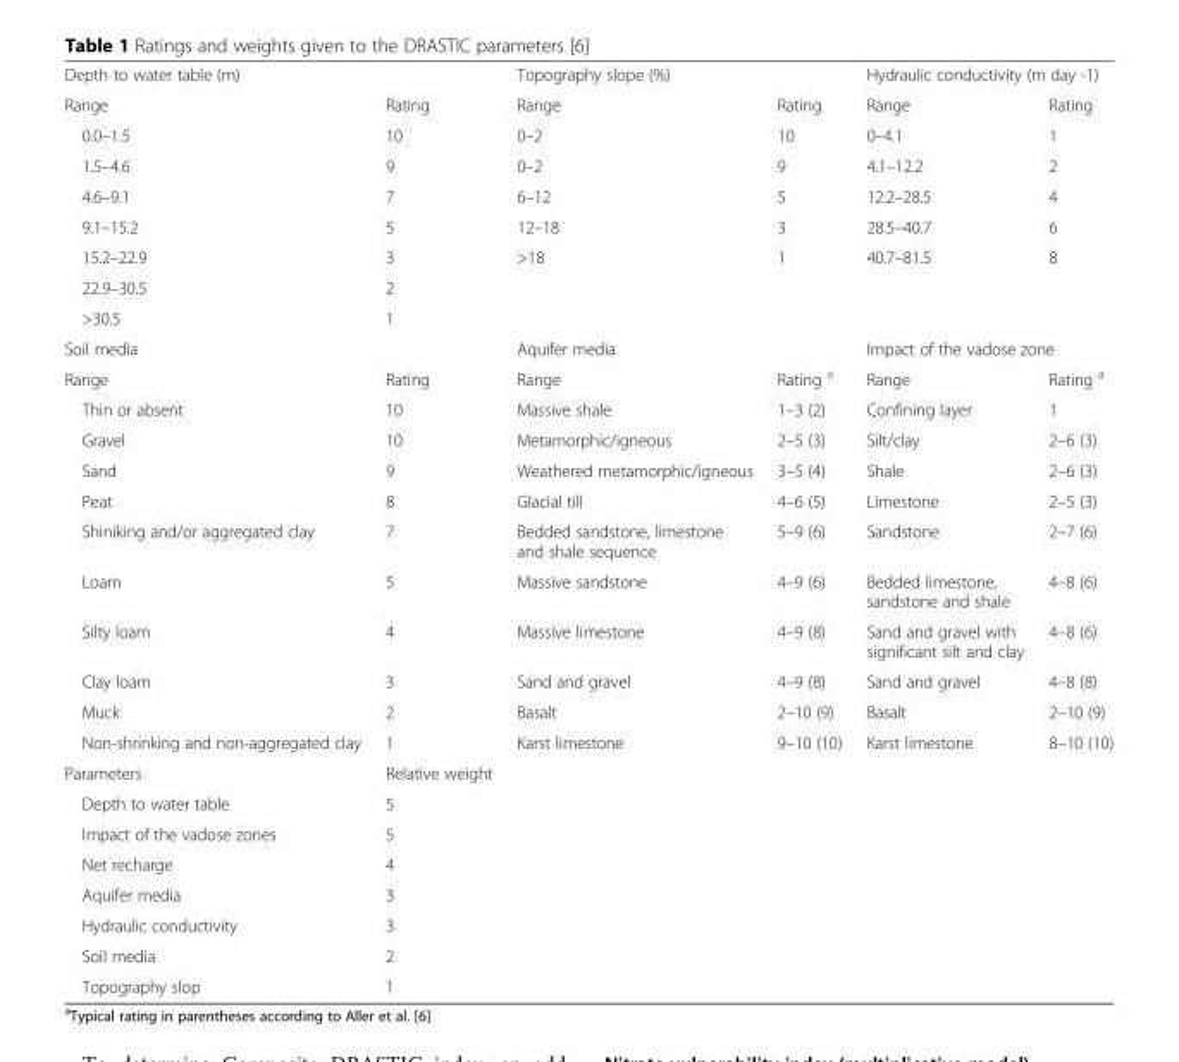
<table><tbody><tr><td colspan="2">Depth to water table (m)</td><td colspan="2">Topography slope (%)</td><td colspan="2">Hydraulic conductivity (m day -1)</td></tr><tr><td>Range</td><td>Rating</td><td>Range</td><td>Rating</td><td>Range</td><td>Rating</td></tr><tr><td>0.0–1.5</td><td>10</td><td>0–2</td><td>10</td><td>0–4.1</td><td>1</td></tr><tr><td>1.5–4.6</td><td>9</td><td>0–2</td><td>9</td><td>4.1–12.2</td><td>2</td></tr><tr><td>4.6–9.1</td><td>7</td><td>6–12</td><td>5</td><td>12.2–28.5</td><td>4</td></tr><tr><td>9.1–15.2</td><td>5</td><td>12–18</td><td>3</td><td>28.5–40.7</td><td>6</td></tr><tr><td>15.2–22.9</td><td>3</td><td>&gt;18</td><td>1</td><td>40.7–81.5</td><td>8</td></tr><tr><td>22.9–30.5</td><td>2</td><td></td><td></td><td></td><td></td></tr><tr><td>&gt;30.5</td><td>1</td><td></td><td></td><td></td><td></td></tr><tr><td colspan="2">Soil media</td><td colspan="2">Aquifer media</td><td colspan="2">Impact of the vadose zone</td></tr><tr><td>Range</td><td>Rating</td><td>Range</td><td>Rating <sup>a</sup></td><td>Range</td><td>Rating <sup>a</sup></td></tr><tr><td>Thin or absent</td><td>10</td><td>Massive shale</td><td>1–3 (2)</td><td>Confining layer</td><td>1</td></tr><tr><td>Gravel</td><td>10</td><td>Metamorphic/igneous</td><td>2–5 (3)</td><td>Silt/clay</td><td>2–6 (3)</td></tr><tr><td>Sand</td><td>9</td><td>Weathered metamorphic/igneous</td><td>3–5 (4)</td><td>Shale</td><td>2–6 (3)</td></tr><tr><td>Peat</td><td>8</td><td>Glacial till</td><td>4–6 (5)</td><td>Limestone</td><td>2–5 (3)</td></tr><tr><td>Shiniking and/or aggregated clay</td><td>7</td><td>Bedded sandstone, limestone and shale sequence</td><td>5–9 (6)</td><td>Sandstone</td><td>2–7 (6)</td></tr><tr><td>Loam</td><td>5</td><td>Massive sandstone</td><td>4–9 (6)</td><td>Bedded limestone, sandstone and shale</td><td>4–8 (6)</td></tr><tr><td>Silty loam</td><td>4</td><td>Massive limestone</td><td>4–9 (8)</td><td>Sand and gravel with significant silt and clay</td><td>4–8 (6)</td></tr><tr><td>Clay loam</td><td>3</td><td>Sand and gravel</td><td>4–9 (8)</td><td>Sand and gravel</td><td>4–8 (8)</td></tr><tr><td>Muck</td><td>2</td><td>Basalt</td><td>2–10 (9)</td><td>Basalt</td><td>2–10 (9)</td></tr><tr><td>Non-shrinking and non-aggregated clay</td><td>1</td><td>Karst limestone</td><td>9–10 (10)</td><td>Karst limestone</td><td>8–10 (10)</td></tr><tr><td>Parameters</td><td>Relative weight</td><td></td><td></td><td></td><td></td></tr><tr><td>Depth to water table</td><td>5</td><td></td><td></td><td></td><td></td></tr><tr><td>Impact of the vadose zones</td><td>5</td><td></td><td></td><td></td><td></td></tr><tr><td>Net recharge</td><td>4</td><td></td><td></td><td></td><td></td></tr><tr><td>Aquifer media</td><td>3</td><td></td><td></td><td></td><td></td></tr><tr><td>Hydraulic conductivity</td><td>3</td><td></td><td></td><td></td><td></td></tr><tr><td>Soil media</td><td>2</td><td></td><td></td><td></td><td></td></tr><tr><td>Topography slop</td><td>1</td><td></td><td></td><td></td><td></td></tr></tbody></table>